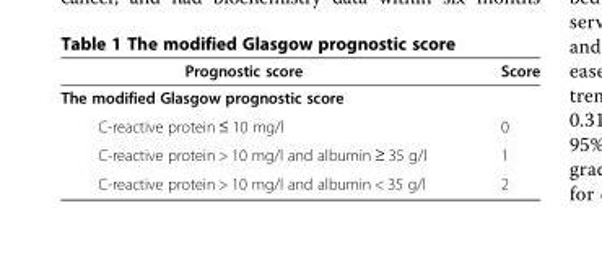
<table><thead><tr><td>Prognostic score</td><td>Score</td></tr></thead><tbody><tr><td colspan="2">The modified Glasgow prognostic score</td></tr><tr><td>C-reactive protein ≤ 10 mg/l</td><td>0</td></tr><tr><td>C-reactive protein &gt; 10 mg/l and albumin ≥ 35 g/l</td><td>1</td></tr><tr><td>C-reactive protein &gt; 10 mg/l and albumin &lt; 35 g/l</td><td>2</td></tr></tbody></table>